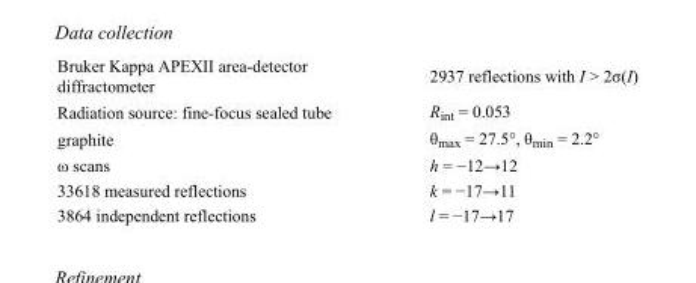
<table><tbody><tr><td>Bruker Kappa APEXII area-detector diffractometer</td><td>2937 reflections with I &gt; 2σ(I)</td></tr><tr><td>Radiation source: fine-focus sealed tube</td><td>R<sub>int</sub> = 0.053</td></tr><tr><td>graphite</td><td>θ<sub>max</sub> = 27.5°, θ<sub>min</sub> = 2.2°</td></tr><tr><td>ω scans</td><td>h = −12→12</td></tr><tr><td>33618 measured reflections</td><td>k = −17→11</td></tr><tr><td>3864 independent reflections</td><td>l = −17→17</td></tr></tbody></table>